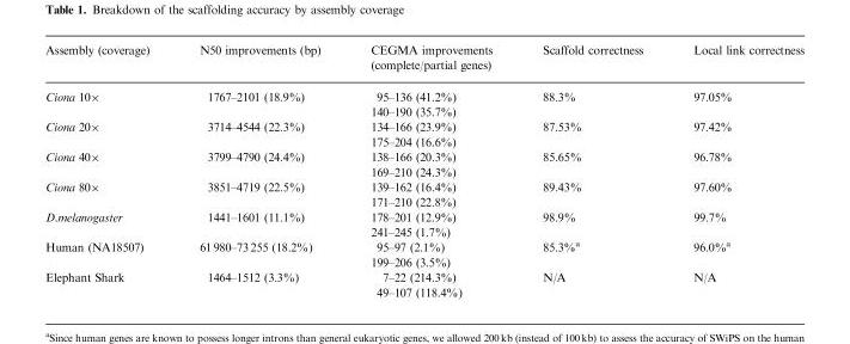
<table><thead><tr><td>Assembly (coverage)</td><td>N50 improvements (bp)</td><td>CEGMA improvements (complete/partial genes)</td><td>Scaffold correctness</td><td>Local link correctness</td></tr></thead><tbody><tr><td rowspan="2">Ciona 10×</td><td rowspan="2">1767–2101 (18.9%)</td><td>95–136 (41.2%)</td><td rowspan="2">88.3%</td><td rowspan="2">97.05%</td></tr><tr><td>140–190 (35.7%)</td></tr><tr><td rowspan="2">Ciona 20×</td><td rowspan="2">3714–4544 (22.3%)</td><td>134–166 (23.9%)</td><td rowspan="2">87.53%</td><td rowspan="2">97.42%</td></tr><tr><td>175–204 (16.6%)</td></tr><tr><td rowspan="2">Ciona 40×</td><td rowspan="2">3799–4790 (24.4%)</td><td>138–166 (20.3%)</td><td rowspan="2">85.65%</td><td rowspan="2">96.78%</td></tr><tr><td>169–210 (24.3%)</td></tr><tr><td rowspan="2">Ciona 80×</td><td rowspan="2">3851–4719 (22.5%)</td><td>139–162 (16.4%)</td><td rowspan="2">89.43%</td><td rowspan="2">97.60%</td></tr><tr><td>171–210 (22.8%)</td></tr><tr><td rowspan="2">D.melanogaster</td><td rowspan="2">1441–1601 (11.1%)</td><td>178–201 (12.9%)</td><td rowspan="2">98.9%</td><td rowspan="2">99.7%</td></tr><tr><td>241–245 (1.7%)</td></tr><tr><td rowspan="2">Human (NA18507)</td><td rowspan="2">61 980–73255 (18.2%)</td><td>95–97 (2.1%)</td><td rowspan="2">85.3%<sup>a</sup></td><td rowspan="2">96.0%<sup>a</sup></td></tr><tr><td>199–206 (3.5%)</td></tr><tr><td rowspan="2">Elephant Shark</td><td rowspan="2">1464–1512 (3.3%)</td><td>7–22 (214.3%)</td><td rowspan="2">N/A</td><td rowspan="2">N/A</td></tr><tr><td>49–107 (118.4%)</td></tr></tbody></table>